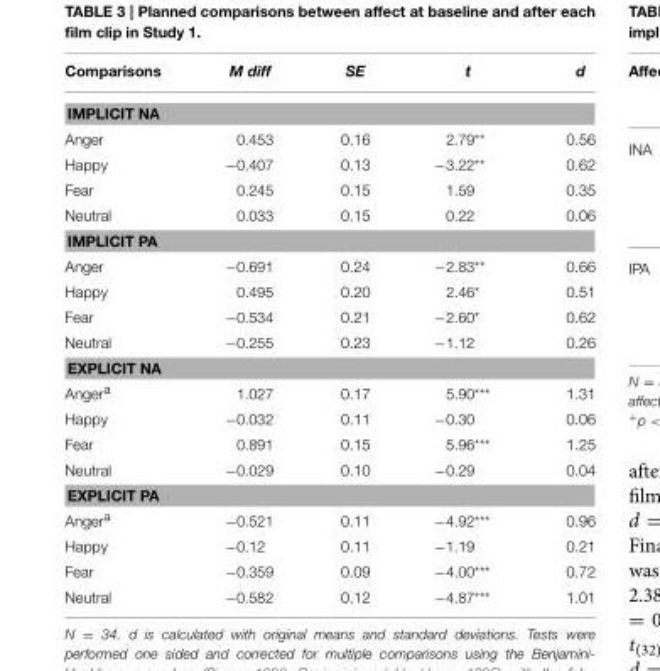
<table><thead><tr><td>Comparisons</td><td>M diff</td><td>SE</td><td>t</td><td>d</td></tr></thead><tbody><tr><td colspan="5">IMPLICIT NA</td></tr><tr><td>Anger</td><td>0.453</td><td>0.16</td><td>2.79**</td><td>0.56</td></tr><tr><td>Happy</td><td>−0.407</td><td>0.13</td><td>−3.22**</td><td>0.62</td></tr><tr><td>Fear</td><td>0.245</td><td>0.15</td><td>1.59</td><td>0.35</td></tr><tr><td>Neutral</td><td>0.033</td><td>0.15</td><td>0.22</td><td>0.06</td></tr><tr><td colspan="5">IMPLICIT PA</td></tr><tr><td>Anger</td><td>−0.691</td><td>0.24</td><td>−2.83**</td><td>0.66</td></tr><tr><td>Happy</td><td>0.495</td><td>0.20</td><td>2.46*</td><td>0.51</td></tr><tr><td>Fear</td><td>−0.534</td><td>0.21</td><td>−2.60*</td><td>0.62</td></tr><tr><td>Neutral</td><td>−0.255</td><td>0.23</td><td>−1.12</td><td>0.26</td></tr><tr><td colspan="5">EXPLICIT NA</td></tr><tr><td>Anger<sup>a</sup></td><td>1.027</td><td>0.17</td><td>5.90***</td><td>1.31</td></tr><tr><td>Happy</td><td>−0.032</td><td>0.11</td><td>−0.30</td><td>0.06</td></tr><tr><td>Fear</td><td>0.891</td><td>0.15</td><td>5.96***</td><td>1.25</td></tr><tr><td>Neutral</td><td>−0.029</td><td>0.10</td><td>−0.29</td><td>0.04</td></tr><tr><td colspan="5">EXPLICIT PA</td></tr><tr><td>Anger<sup>a</sup></td><td>−0.521</td><td>0.11</td><td>−4.92***</td><td>0.96</td></tr><tr><td>Happy</td><td>−0.12</td><td>0.11</td><td>−1.19</td><td>0.21</td></tr><tr><td>Fear</td><td>−0.359</td><td>0.09</td><td>−4.00***</td><td>0.72</td></tr><tr><td>Neutral</td><td>−0.582</td><td>0.12</td><td>−4.87***</td><td>1.01</td></tr></tbody></table>